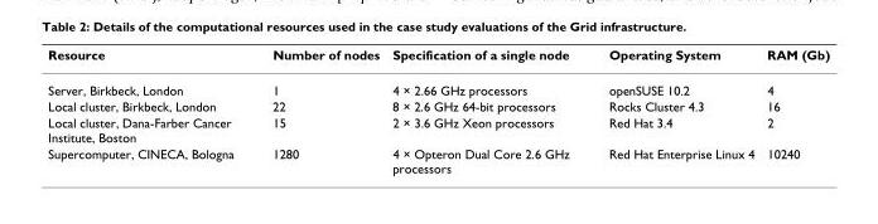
<table><thead><tr><td>Resource</td><td>Number of nodes</td><td>Specification of a single node</td><td>Operating System</td><td>RAM (Gb)</td></tr></thead><tbody><tr><td>Server, Birkbeck, London</td><td>1</td><td>4 × 2.66 GHz processors</td><td>openSUSE 10.2</td><td>4</td></tr><tr><td>Local cluster, Birkbeck, London</td><td>22</td><td>8 × 2.6 GHz 64-bit processors</td><td>Rocks Cluster 4.3</td><td>16</td></tr><tr><td>Local cluster, Dana-Farber Cancer Institute, Boston</td><td>15</td><td>2 × 3.6 GHz Xeon processors</td><td>Red Hat 3.4</td><td>2</td></tr><tr><td>Supercomputer, CINECA, Bologna</td><td>1280</td><td>4 × Opteron Dual Core 2.6 GHz processors</td><td>Red Hat Enterprise Linux 4</td><td>10240</td></tr></tbody></table>